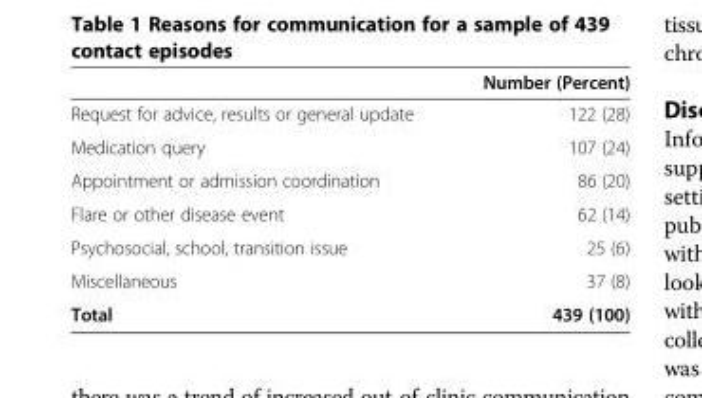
<table><thead><tr><td></td><td>Number (Percent)</td></tr></thead><tbody><tr><td>Request for advice, results or general update</td><td>122 (28)</td></tr><tr><td>Medication query</td><td>107 (24)</td></tr><tr><td>Appointment or admission coordination</td><td>86 (20)</td></tr><tr><td>Flare or other disease event</td><td>62 (14)</td></tr><tr><td>Psychosocial, school, transition issue</td><td>25 (6)</td></tr><tr><td>Miscellaneous</td><td>37 (8)</td></tr><tr><td>Total</td><td>439 (100)</td></tr></tbody></table>